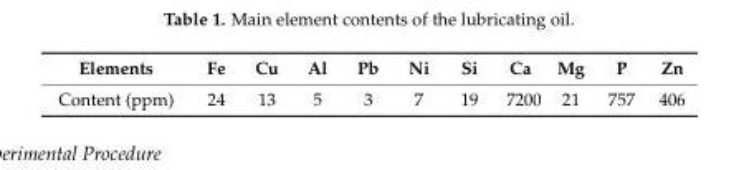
<table><thead><tr><td>Elements</td><td>Fe</td><td>Cu</td><td>Al</td><td>Pb</td><td>Ni</td><td>Si</td><td>Ca</td><td>Mg</td><td>P</td><td>Zn</td></tr></thead><tbody><tr><td>Content (ppm)</td><td>24</td><td>13</td><td>5</td><td>3</td><td>7</td><td>19</td><td>7200</td><td>21</td><td>757</td><td>406</td></tr></tbody></table>